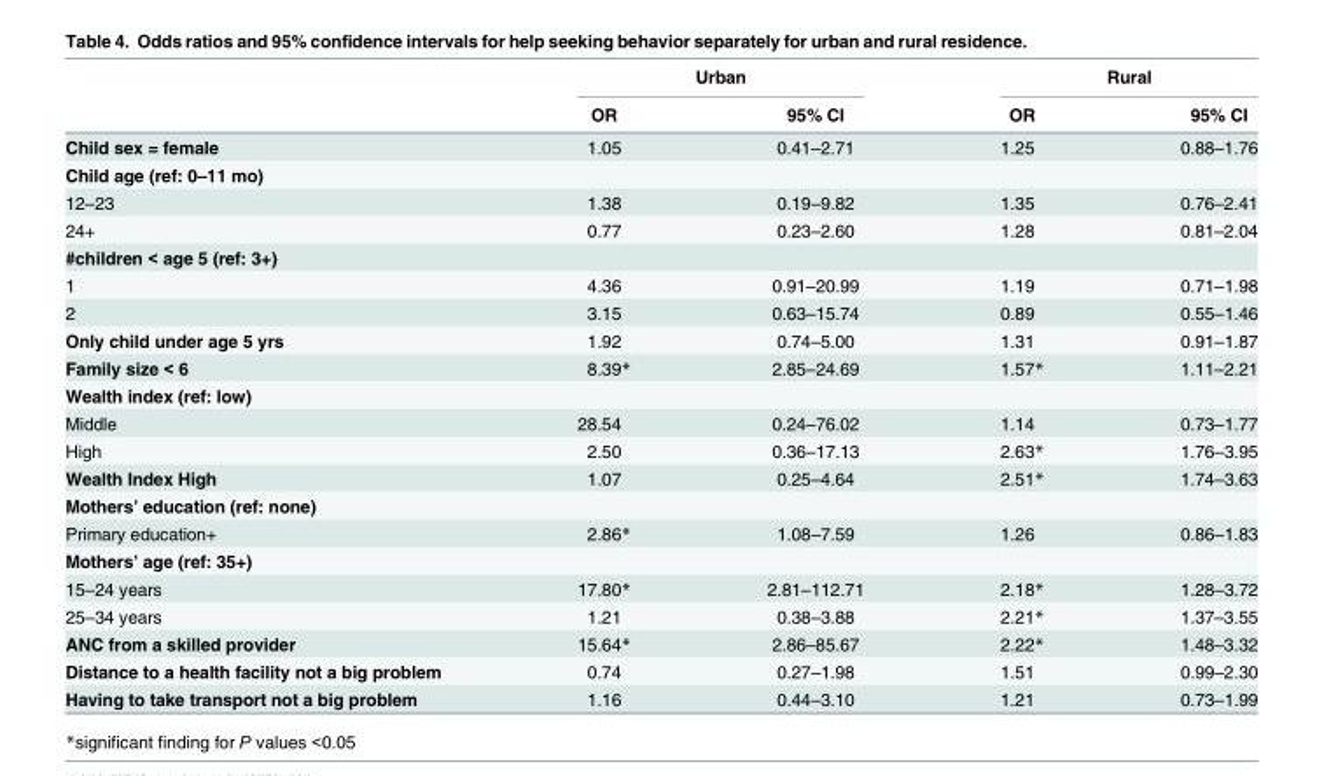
<table><thead><tr><td rowspan="2"></td><td colspan="2">Urban</td><td colspan="2">Rural</td></tr><tr><td>OR</td><td>95% CI</td><td>OR</td><td>95% CI</td></tr></thead><tbody><tr><td>Child sex = female</td><td>1.05</td><td>0.41–2.71</td><td>1.25</td><td>0.88–1.76</td></tr><tr><td colspan="5">Child age (ref: 0–11 mo)</td></tr><tr><td>12–23</td><td>1.38</td><td>0.19–9.82</td><td>1.35</td><td>0.76–2.41</td></tr><tr><td>24+</td><td>0.77</td><td>0.23–2.60</td><td>1.28</td><td>0.81–2.04</td></tr><tr><td colspan="5">#children &lt; age 5 (ref: 3+)</td></tr><tr><td>1</td><td>4.36</td><td>0.91–20.99</td><td>1.19</td><td>0.71–1.98</td></tr><tr><td>2</td><td>3.15</td><td>0.63–15.74</td><td>0.89</td><td>0.55–1.46</td></tr><tr><td>Only child under age 5 yrs</td><td>1.92</td><td>0.74–5.00</td><td>1.31</td><td>0.91–1.87</td></tr><tr><td>Family size &lt; 6</td><td>8.39*</td><td>2.85–24.69</td><td>1.57*</td><td>1.11–2.21</td></tr><tr><td colspan="5">Wealth index (ref: low)</td></tr><tr><td>Middle</td><td>28.54</td><td>0.24–76.02</td><td>1.14</td><td>0.73–1.77</td></tr><tr><td>High</td><td>2.50</td><td>0.36–17.13</td><td>2.63*</td><td>1.76–3.95</td></tr><tr><td>Wealth Index High</td><td>1.07</td><td>0.25–4.64</td><td>2.51*</td><td>1.74–3.63</td></tr><tr><td colspan="5">Mothers’ education (ref: none)</td></tr><tr><td>Primary education+</td><td>2.86*</td><td>1.08–7.59</td><td>1.26</td><td>0.86–1.83</td></tr><tr><td colspan="5">Mothers’ age (ref: 35+)</td></tr><tr><td>15–24 years</td><td>17.80*</td><td>2.81–112.71</td><td>2.18*</td><td>1.28–3.72</td></tr><tr><td>25–34 years</td><td>1.21</td><td>0.38–3.88</td><td>2.21*</td><td>1.37–3.55</td></tr><tr><td>ANC from a skilled provider</td><td>15.64*</td><td>2.86–85.67</td><td>2.22*</td><td>1.48–3.32</td></tr><tr><td>Distance to a health facility not a big problem</td><td>0.74</td><td>0.27–1.98</td><td>1.51</td><td>0.99–2.30</td></tr><tr><td>Having to take transport not a big problem</td><td>1.16</td><td>0.44–3.10</td><td>1.21</td><td>0.73–1.99</td></tr></tbody></table>